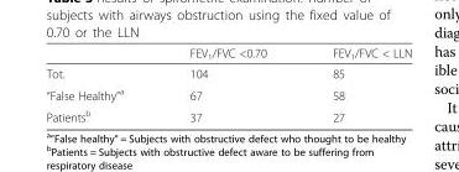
<table><thead><tr><td></td><td>FEV<sub>1</sub>/FVC &lt;0.70</td><td>FEV<sub>1</sub>/FVC &lt; LLN</td></tr></thead><tbody><tr><td>Tot.</td><td>104</td><td>85</td></tr><tr><td>“False Healthy”<sup>a</sup></td><td>67</td><td>58</td></tr><tr><td>Patients<sup>b</sup></td><td>37</td><td>27</td></tr></tbody></table>